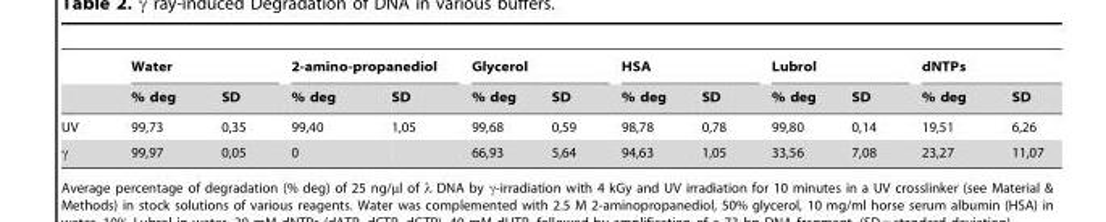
<table><thead><tr><td rowspan="2"></td><td colspan="2">Water</td><td colspan="2">2-amino-propanediol</td><td colspan="2">Glycerol</td><td colspan="2">HSA</td><td colspan="2">Lubrol</td><td colspan="2">dNTPs</td></tr><tr><td>% deg</td><td>SD</td><td>% deg</td><td>SD</td><td>% deg</td><td>SD</td><td>% deg</td><td>SD</td><td>% deg</td><td>SD</td><td>% deg</td><td>SD</td></tr></thead><tbody><tr><td>UV</td><td>99,73</td><td>0,35</td><td>99,40</td><td>1,05</td><td>99,68</td><td>0,59</td><td>98,78</td><td>0,78</td><td>99,80</td><td>0,14</td><td>19,51</td><td>6,26</td></tr><tr><td>γ</td><td>99,97</td><td>0,05</td><td>0</td><td></td><td>66,93</td><td>5,64</td><td>94,63</td><td>1,05</td><td>33,56</td><td>7,08</td><td>23,27</td><td>11,07</td></tr></tbody></table>